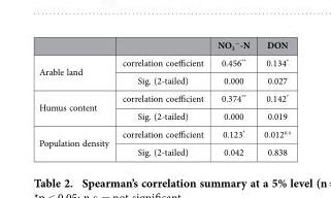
<table><thead><tr><td></td><td></td><td>NO<sub>3</sub> <sup>−</sup>-N</td><td>DON</td></tr></thead><tbody><tr><td rowspan="2">Arable land</td><td>correlation coefficient</td><td>0.456**</td><td>0.134*</td></tr><tr><td>Sig. (2-tailed)</td><td>0.000</td><td>0.027</td></tr><tr><td rowspan="2">Humus content</td><td>correlation coefficient</td><td>0.374**</td><td>0.142*</td></tr><tr><td>Sig. (2-tailed)</td><td>0.000</td><td>0.019</td></tr><tr><td rowspan="2">Population density</td><td>correlation coefficient</td><td>0.123*</td><td>0.012<sup>n.s</sup></td></tr><tr><td>Sig. (2-tailed)</td><td>0.042</td><td>0.838</td></tr></tbody></table>